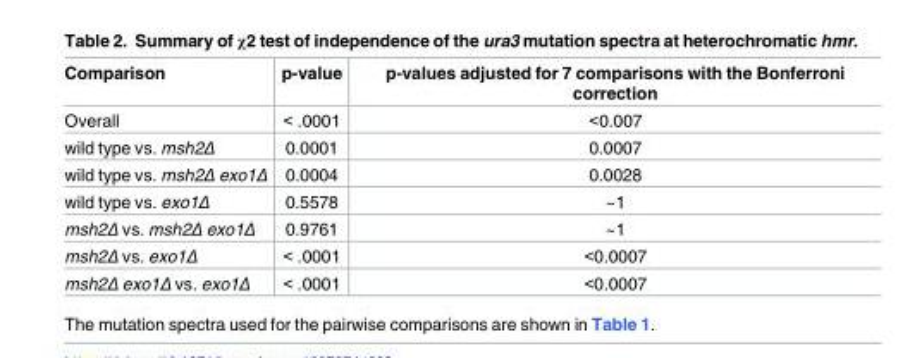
<table><thead><tr><td>Comparison</td><td>p-value</td><td>p-values adjusted for 7 comparisons with the Bonferroni correction</td></tr></thead><tbody><tr><td>Overall</td><td>&lt; .0001</td><td>&lt;0.007</td></tr><tr><td>wild type vs. msh2Δ</td><td>0.0001</td><td>0.0007</td></tr><tr><td>wild type vs. msh2Δ exo1Δ</td><td>0.0004</td><td>0.0028</td></tr><tr><td>wild type vs. exo1Δ</td><td>0.5578</td><td>~1</td></tr><tr><td>msh2Δ vs. msh2Δ exo1Δ</td><td>0.9761</td><td>~1</td></tr><tr><td>msh2Δ vs. exo1Δ</td><td>&lt; .0001</td><td>&lt;0.0007</td></tr><tr><td>msh2Δ exo1Δ vs. exo1Δ</td><td>&lt; .0001</td><td>&lt;0.0007</td></tr></tbody></table>